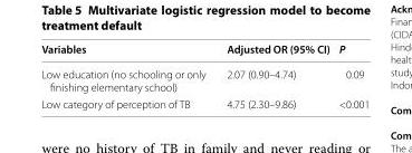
<table><thead><tr><td>Variables</td><td>Adjusted OR (95% CI)</td><td>P</td></tr></thead><tbody><tr><td>Low education (no schooling or only finishing elementary school)</td><td>2.07 (0.90–4.74)</td><td>0.09</td></tr><tr><td>Low category of perception of TB</td><td>4.75 (2.30–9.86)</td><td>&lt;0.001</td></tr></tbody></table>